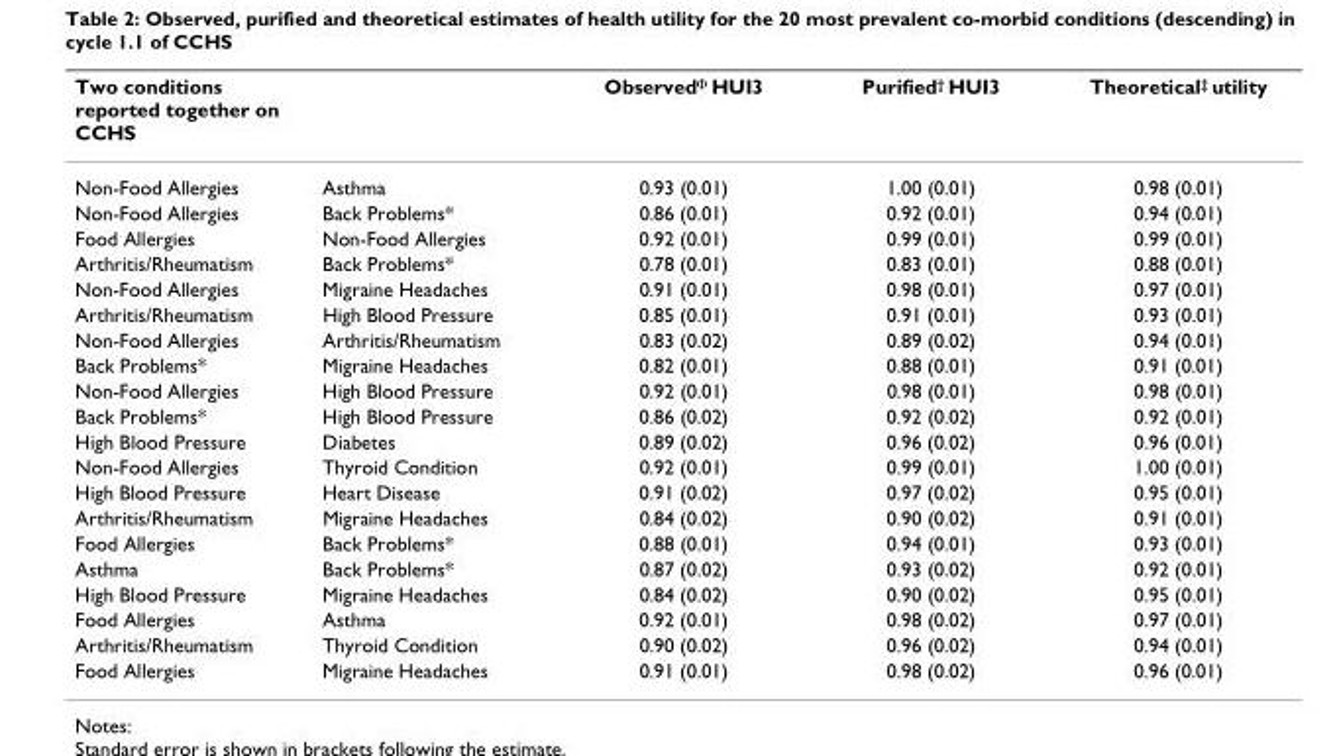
<table><thead><tr><td>Two conditions reported together on CCHS</td><td></td><td>Observed<sup>Φ</sup> HUI3</td><td>Purified<sup>†</sup> HUI3</td><td>Theoretical<sup>‡</sup> utility</td></tr></thead><tbody><tr><td>Non-Food Allergies</td><td>Asthma</td><td>0.93 (0.01)</td><td>1.00 (0.01)</td><td>0.98 (0.01)</td></tr><tr><td>Non-Food Allergies</td><td>Back Problems*</td><td>0.86 (0.01)</td><td>0.92 (0.01)</td><td>0.94 (0.01)</td></tr><tr><td>Food Allergies</td><td>Non-Food Allergies</td><td>0.92 (0.01)</td><td>0.99 (0.01)</td><td>0.99 (0.01)</td></tr><tr><td>Arthritis/Rheumatism</td><td>Back Problems*</td><td>0.78 (0.01)</td><td>0.83 (0.01)</td><td>0.88 (0.01)</td></tr><tr><td>Non-Food Allergies</td><td>Migraine Headaches</td><td>0.91 (0.01)</td><td>0.98 (0.01)</td><td>0.97 (0.01)</td></tr><tr><td>Arthritis/Rheumatism</td><td>High Blood Pressure</td><td>0.85 (0.01)</td><td>0.91 (0.01)</td><td>0.93 (0.01)</td></tr><tr><td>Non-Food Allergies</td><td>Arthritis/Rheumatism</td><td>0.83 (0.02)</td><td>0.89 (0.02)</td><td>0.94 (0.01)</td></tr><tr><td>Back Problems*</td><td>Migraine Headaches</td><td>0.82 (0.01)</td><td>0.88 (0.01)</td><td>0.91 (0.01)</td></tr><tr><td>Non-Food Allergies</td><td>High Blood Pressure</td><td>0.92 (0.01)</td><td>0.98 (0.01)</td><td>0.98 (0.01)</td></tr><tr><td>Back Problems*</td><td>High Blood Pressure</td><td>0.86 (0.02)</td><td>0.92 (0.02)</td><td>0.92 (0.01)</td></tr><tr><td>High Blood Pressure</td><td>Diabetes</td><td>0.89 (0.02)</td><td>0.96 (0.02)</td><td>0.96 (0.01)</td></tr><tr><td>Non-Food Allergies</td><td>Thyroid Condition</td><td>0.92 (0.01)</td><td>0.99 (0.01)</td><td>1.00 (0.01)</td></tr><tr><td>High Blood Pressure</td><td>Heart Disease</td><td>0.91 (0.02)</td><td>0.97 (0.02)</td><td>0.95 (0.01)</td></tr><tr><td>Arthritis/Rheumatism</td><td>Migraine Headaches</td><td>0.84 (0.02)</td><td>0.90 (0.02)</td><td>0.91 (0.01)</td></tr><tr><td>Food Allergies</td><td>Back Problems*</td><td>0.88 (0.01)</td><td>0.94 (0.01)</td><td>0.93 (0.01)</td></tr><tr><td>Asthma</td><td>Back Problems*</td><td>0.87 (0.02)</td><td>0.93 (0.02)</td><td>0.92 (0.01)</td></tr><tr><td>High Blood Pressure</td><td>Migraine Headaches</td><td>0.84 (0.02)</td><td>0.90 (0.02)</td><td>0.95 (0.01)</td></tr><tr><td>Food Allergies</td><td>Asthma</td><td>0.92 (0.01)</td><td>0.98 (0.02)</td><td>0.97 (0.01)</td></tr><tr><td>Arthritis/Rheumatism</td><td>Thyroid Condition</td><td>0.90 (0.02)</td><td>0.96 (0.02)</td><td>0.94 (0.01)</td></tr><tr><td>Food Allergies</td><td>Migraine Headaches</td><td>0.91 (0.01)</td><td>0.98 (0.02)</td><td>0.96 (0.01)</td></tr></tbody></table>